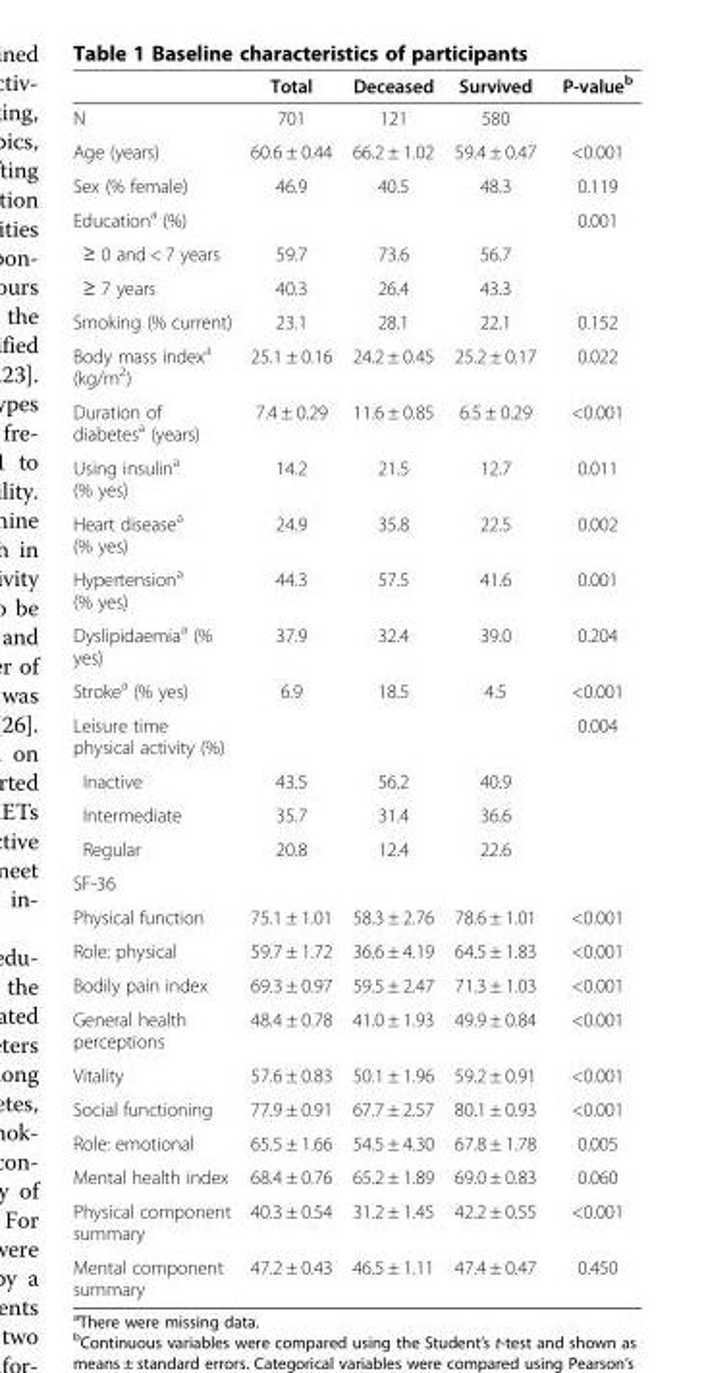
<table><thead><tr><td></td><td>Total</td><td>Deceased</td><td>Survived</td><td>P-value<sup>b</sup></td></tr></thead><tbody><tr><td>N</td><td>701</td><td>121</td><td>580</td><td></td></tr><tr><td>Age (years)</td><td>60.6 ± 0.44</td><td>66.2 ± 1.02</td><td>59.4 ± 0.47</td><td>&lt;0.001</td></tr><tr><td>Sex (% female)</td><td>46.9</td><td>40.5</td><td>48.3</td><td>0.119</td></tr><tr><td>Education<sup>a</sup> (%)</td><td></td><td></td><td></td><td>0.001</td></tr><tr><td>≥ 0 and &lt; 7 years</td><td>59.7</td><td>73.6</td><td>56.7</td><td></td></tr><tr><td>≥ 7 years</td><td>40.3</td><td>26.4</td><td>43.3</td><td></td></tr><tr><td>Smoking (% current)</td><td>23.1</td><td>28.1</td><td>22.1</td><td>0.152</td></tr><tr><td>Body mass index<sup>a</sup> (kg/m<sup>2</sup>)</td><td>25.1 ± 0.16</td><td>24.2 ± 0.45</td><td>25.2 ± 0.17</td><td>0.022</td></tr><tr><td>Duration of diabetes<sup>a</sup> (years)</td><td>7.4 ± 0.29</td><td>11.6 ± 0.85</td><td>6.5 ± 0.29</td><td>&lt;0.001</td></tr><tr><td>Using insulin<sup>a</sup> (% yes)</td><td>14.2</td><td>21.5</td><td>12.7</td><td>0.011</td></tr><tr><td>Heart disease<sup>a</sup> (% yes)</td><td>24.9</td><td>35.8</td><td>22.5</td><td>0.002</td></tr><tr><td>Hypertension<sup>a</sup> (% yes)</td><td>44.3</td><td>57.5</td><td>41.6</td><td>0.001</td></tr><tr><td>Dyslipidaemia<sup>a</sup> (% yes)</td><td>37.9</td><td>32.4</td><td>39.0</td><td>0.204</td></tr><tr><td>Stroke<sup>a</sup> (% yes)</td><td>6.9</td><td>18.5</td><td>4.5</td><td>&lt;0.001</td></tr><tr><td>Leisure time physical activity (%)</td><td></td><td></td><td></td><td>0.004</td></tr><tr><td>Inactive</td><td>43.5</td><td>56.2</td><td>40.9</td><td></td></tr><tr><td>Intermediate</td><td>35.7</td><td>31.4</td><td>36.6</td><td></td></tr><tr><td>Regular</td><td>20.8</td><td>12.4</td><td>22.6</td><td></td></tr><tr><td colspan="5">SF-36</td></tr><tr><td>Physical function</td><td>75.1 ± 1.01</td><td>58.3 ± 2.76</td><td>78.6 ± 1.01</td><td>&lt;0.001</td></tr><tr><td>Role: physical</td><td>59.7 ± 1.72</td><td>36.6 ± 4.19</td><td>64.5 ± 1.83</td><td>&lt;0.001</td></tr><tr><td>Bodily pain index</td><td>69.3 ± 0.97</td><td>59.5 ± 2.47</td><td>71.3 ± 1.03</td><td>&lt;0.001</td></tr><tr><td>General health perceptions</td><td>48.4 ± 0.78</td><td>41.0 ± 1.93</td><td>49.9 ± 0.84</td><td>&lt;0.001</td></tr><tr><td>Vitality</td><td>57.6 ± 0.83</td><td>50.1 ± 1.96</td><td>59.2 ± 0.91</td><td>&lt;0.001</td></tr><tr><td>Social functioning</td><td>77.9 ± 0.91</td><td>67.7 ± 2.57</td><td>80.1 ± 0.93</td><td>&lt;0.001</td></tr><tr><td>Role: emotional</td><td>65.5 ± 1.66</td><td>54.5 ± 4.30</td><td>67.8 ± 1.78</td><td>0.005</td></tr><tr><td>Mental health index</td><td>68.4 ± 0.76</td><td>65.2 ± 1.89</td><td>69.0 ± 0.83</td><td>0.060</td></tr><tr><td>Physical component summary</td><td>40.3 ± 0.54</td><td>31.2 ± 1.45</td><td>42.2 ± 0.55</td><td>&lt;0.001</td></tr><tr><td>Mental component summary</td><td>47.2 ± 0.43</td><td>46.5 ± 1.11</td><td>47.4 ± 0.47</td><td>0.450</td></tr></tbody></table>